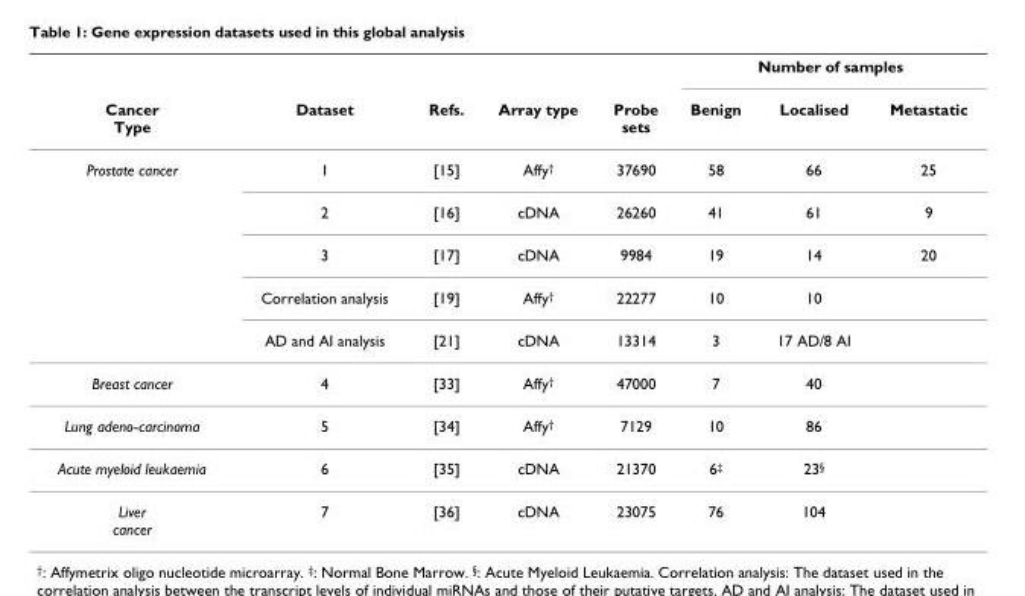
<table><thead><tr><td rowspan="2">Cancer Type</td><td rowspan="2">Dataset</td><td rowspan="2">Refs.</td><td rowspan="2">Array type</td><td rowspan="2">Probe sets</td><td colspan="3">Number of samples</td></tr><tr><td>Benign</td><td>Localised</td><td>Metastatic</td></tr></thead><tbody><tr><td rowspan="5">Prostate cancer</td><td>1</td><td>[15]</td><td>Affy<sup>†</sup></td><td>37690</td><td>58</td><td>66</td><td>25</td></tr><tr><td>2</td><td>[16]</td><td>cDNA</td><td>26260</td><td>41</td><td>61</td><td>9</td></tr><tr><td>3</td><td>[17]</td><td>cDNA</td><td>9984</td><td>19</td><td>14</td><td>20</td></tr><tr><td>Correlation analysis</td><td>[19]</td><td>Affy<sup>†</sup></td><td>22277</td><td>10</td><td>10</td><td></td></tr><tr><td>AD and AI analysis</td><td>[21]</td><td>cDNA</td><td>13314</td><td>3</td><td>17 AD/8 AI</td><td></td></tr><tr><td>Breast cancer</td><td>4</td><td>[33]</td><td>Affy<sup>†</sup></td><td>47000</td><td>7</td><td>40</td><td></td></tr><tr><td>Lung adeno-carcinoma</td><td>5</td><td>[34]</td><td>Affy<sup>†</sup></td><td>7129</td><td>10</td><td>86</td><td></td></tr><tr><td>Acute myeloid leukaemia</td><td>6</td><td>[35]</td><td>cDNA</td><td>21370</td><td>6<sup>‡</sup></td><td>23<sup>§</sup></td><td></td></tr><tr><td>Liver cancer</td><td>7</td><td>[36]</td><td>cDNA</td><td>23075</td><td>76</td><td>104</td><td></td></tr></tbody></table>